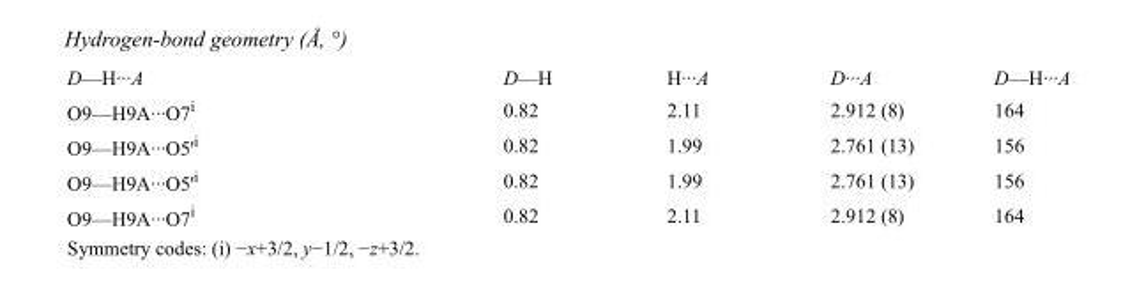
<table><tbody><tr><td>D—H···A</td><td>D—H</td><td>H···A</td><td>D···A</td><td>D—H···A</td></tr><tr><td>O9—H9A···O7<sup>i</sup></td><td>0.82</td><td>2.11</td><td>2.912 (8)</td><td>164</td></tr><tr><td>O9—H9A···O5&#x27;<sup>i</sup></td><td>0.82</td><td>1.99</td><td>2.761 (13)</td><td>156</td></tr><tr><td>O9—H9A···O5&#x27;<sup>i</sup></td><td>0.82</td><td>1.99</td><td>2.761 (13)</td><td>156</td></tr><tr><td>O9—H9A···O7<sup>i</sup></td><td>0.82</td><td>2.11</td><td>2.912 (8)</td><td>164</td></tr></tbody></table>